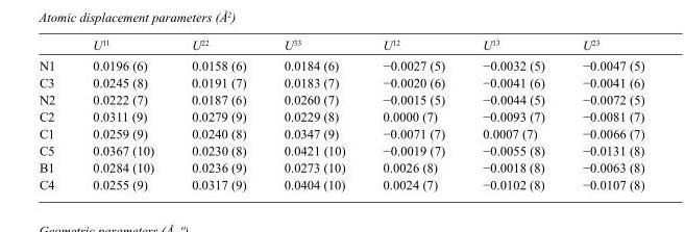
<table><thead><tr><td></td><td>U<sup>11</sup></td><td>U<sup>22</sup></td><td>U<sup>33</sup></td><td>U<sup>12</sup></td><td>U<sup>13</sup></td><td>U<sup>23</sup></td></tr></thead><tbody><tr><td>N1</td><td>0.0196 (6)</td><td>0.0158 (6)</td><td>0.0184 (6)</td><td>−0.0027 (5)</td><td>−0.0032 (5)</td><td>−0.0047 (5)</td></tr><tr><td>C3</td><td>0.0245 (8)</td><td>0.0191 (7)</td><td>0.0183 (7)</td><td>−0.0020 (6)</td><td>−0.0041 (6)</td><td>−0.0041 (6)</td></tr><tr><td>N2</td><td>0.0222 (7)</td><td>0.0187 (6)</td><td>0.0260 (7)</td><td>−0.0015 (5)</td><td>−0.0044 (5)</td><td>−0.0072 (5)</td></tr><tr><td>C2</td><td>0.0311 (9)</td><td>0.0279 (9)</td><td>0.0229 (8)</td><td>0.0000 (7)</td><td>−0.0093 (7)</td><td>−0.0081 (7)</td></tr><tr><td>C1</td><td>0.0259 (9)</td><td>0.0240 (8)</td><td>0.0347 (9)</td><td>−0.0071 (7)</td><td>0.0007 (7)</td><td>−0.0066 (7)</td></tr><tr><td>C5</td><td>0.0367 (10)</td><td>0.0230 (8)</td><td>0.0421 (10)</td><td>−0.0019 (7)</td><td>−0.0055 (8)</td><td>−0.0131 (8)</td></tr><tr><td>B1</td><td>0.0284 (10)</td><td>0.0236 (9)</td><td>0.0273 (10)</td><td>0.0026 (8)</td><td>−0.0018 (8)</td><td>−0.0063 (8)</td></tr><tr><td>C4</td><td>0.0255 (9)</td><td>0.0317 (9)</td><td>0.0404 (10)</td><td>0.0024 (7)</td><td>−0.0102 (8)</td><td>−0.0107 (8)</td></tr></tbody></table>